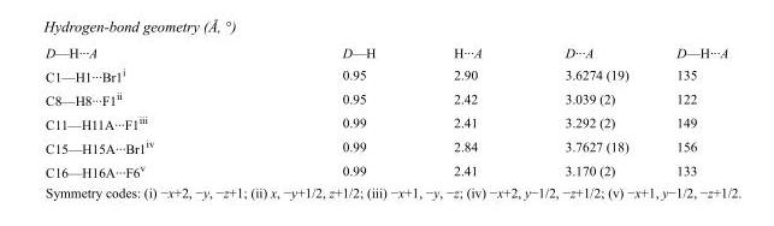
<table><tbody><tr><td>D—H···A</td><td>D—H</td><td>H···A</td><td>D···A</td><td>D—H···A</td></tr><tr><td>C1—H1···Br1<sup>i</sup></td><td>0.95</td><td>2.90</td><td>3.6274 (19)</td><td>135</td></tr><tr><td>C8—H8···F1<sup>ii</sup></td><td>0.95</td><td>2.42</td><td>3.039 (2)</td><td>122</td></tr><tr><td>C11—H11A···F1<sup>iii</sup></td><td>0.99</td><td>2.41</td><td>3.292 (2)</td><td>149</td></tr><tr><td>C15—H15A···Br1<sup>iv</sup></td><td>0.99</td><td>2.84</td><td>3.7627 (18)</td><td>156</td></tr><tr><td>C16—H16A···F6<sup>v</sup></td><td>0.99</td><td>2.41</td><td>3.170 (2)</td><td>133</td></tr></tbody></table>